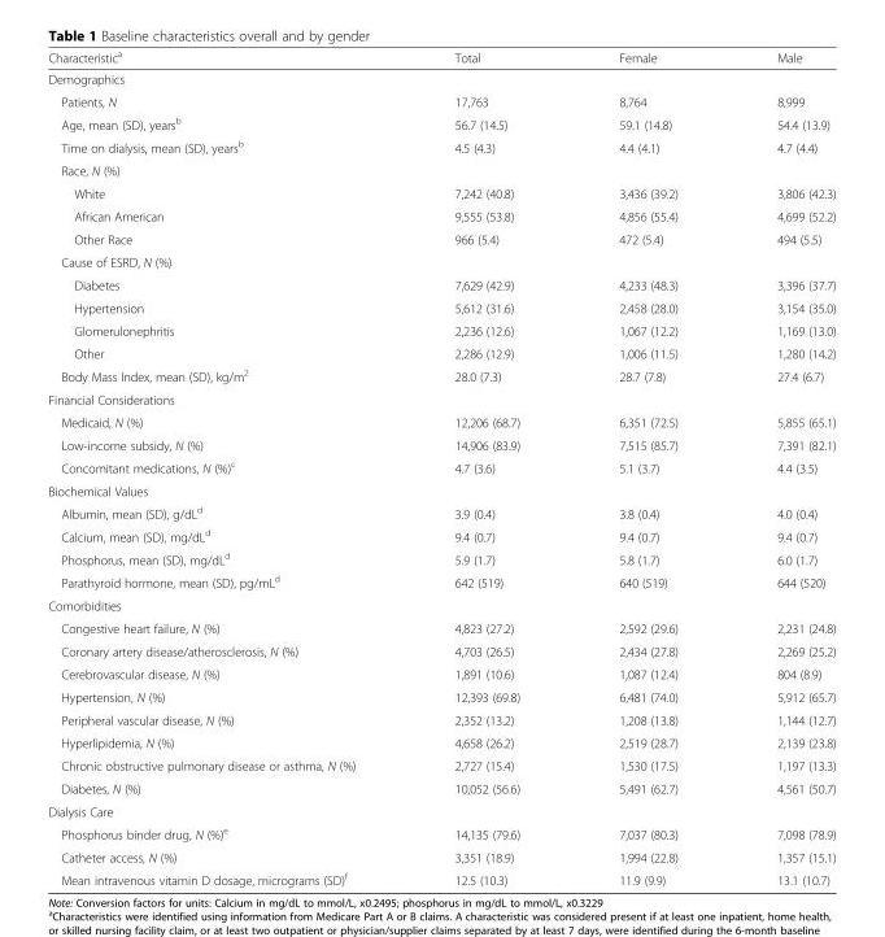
<table><thead><tr><td>Characteristic<sup>a</sup></td><td>Total</td><td>Female</td><td>Male</td></tr></thead><tbody><tr><td colspan="4">Demographics</td></tr><tr><td>Patients, N</td><td>17,763</td><td>8,764</td><td>8,999</td></tr><tr><td>Age, mean (SD), years<sup>b</sup></td><td>56.7 (14.5)</td><td>59.1 (14.8)</td><td>54.4 (13.9)</td></tr><tr><td>Time on dialysis, mean (SD), years<sup>b</sup></td><td>4.5 (4.3)</td><td>4.4 (4.1)</td><td>4.7 (4.4)</td></tr><tr><td colspan="4">Race, N (%)</td></tr><tr><td>White</td><td>7,242 (40.8)</td><td>3,436 (39.2)</td><td>3,806 (42.3)</td></tr><tr><td>African American</td><td>9,555 (53.8)</td><td>4,856 (55.4)</td><td>4,699 (52.2)</td></tr><tr><td>Other Race</td><td>966 (5.4)</td><td>472 (5.4)</td><td>494 (5.5)</td></tr><tr><td colspan="4">Cause of ESRD, N (%)</td></tr><tr><td>Diabetes</td><td>7,629 (42.9)</td><td>4,233 (48.3)</td><td>3,396 (37.7)</td></tr><tr><td>Hypertension</td><td>5,612 (31.6)</td><td>2,458 (28.0)</td><td>3,154 (35.0)</td></tr><tr><td>Glomerulonephritis</td><td>2,236 (12.6)</td><td>1,067 (12.2)</td><td>1,169 (13.0)</td></tr><tr><td>Other</td><td>2,286 (12.9)</td><td>1,006 (11.5)</td><td>1,280 (14.2)</td></tr><tr><td>Body Mass Index, mean (SD), kg/m<sup>2</sup></td><td>28.0 (7.3)</td><td>28.7 (7.8)</td><td>27.4 (6.7)</td></tr><tr><td colspan="4">Financial Considerations</td></tr><tr><td>Medicaid, N (%)</td><td>12,206 (68.7)</td><td>6,351 (72.5)</td><td>5,855 (65.1)</td></tr><tr><td>Low-income subsidy, N (%)</td><td>14,906 (83.9)</td><td>7,515 (85.7)</td><td>7,391 (82.1)</td></tr><tr><td>Concomitant medications, N (%)<sup>c</sup></td><td>4.7 (3.6)</td><td>5.1 (3.7)</td><td>4.4 (3.5)</td></tr><tr><td colspan="4">Biochemical Values</td></tr><tr><td>Albumin, mean (SD), g/dL<sup>d</sup></td><td>3.9 (0.4)</td><td>3.8 (0.4)</td><td>4.0 (0.4)</td></tr><tr><td>Calcium, mean (SD), mg/dL<sup>d</sup></td><td>9.4 (0.7)</td><td>9.4 (0.7)</td><td>9.4 (0.7)</td></tr><tr><td>Phosphorus, mean (SD), mg/dL<sup>d</sup></td><td>5.9 (1.7)</td><td>5.8 (1.7)</td><td>6.0 (1.7)</td></tr><tr><td>Parathyroid hormone, mean (SD), pg/mL<sup>d</sup></td><td>642 (519)</td><td>640 (519)</td><td>644 (520)</td></tr><tr><td colspan="4">Comorbidities</td></tr><tr><td>Congestive heart failure, N (%)</td><td>4,823 (27.2)</td><td>2,592 (29.6)</td><td>2,231 (24.8)</td></tr><tr><td>Coronary artery disease/atherosclerosis, N (%)</td><td>4,703 (26.5)</td><td>2,434 (27.8)</td><td>2,269 (25.2)</td></tr><tr><td>Cerebrovascular disease, N (%)</td><td>1,891 (10.6)</td><td>1,087 (12.4)</td><td>804 (8.9)</td></tr><tr><td>Hypertension, N (%)</td><td>12,393 (69.8)</td><td>6,481 (74.0)</td><td>5,912 (65.7)</td></tr><tr><td>Peripheral vascular disease, N (%)</td><td>2,352 (13.2)</td><td>1,208 (13.8)</td><td>1,144 (12.7)</td></tr><tr><td>Hyperlipidemia, N (%)</td><td>4,658 (26.2)</td><td>2,519 (28.7)</td><td>2,139 (23.8)</td></tr><tr><td>Chronic obstructive pulmonary disease or asthma, N (%)</td><td>2,727 (15.4)</td><td>1,530 (17.5)</td><td>1,197 (13.3)</td></tr><tr><td>Diabetes, N (%)</td><td>10,052 (56.6)</td><td>5,491 (62.7)</td><td>4,561 (50.7)</td></tr><tr><td colspan="4">Dialysis Care</td></tr><tr><td>Phosphorus binder drug, N (%)<sup>e</sup></td><td>14,135 (79.6)</td><td>7,037 (80.3)</td><td>7,098 (78.9)</td></tr><tr><td>Catheter access, N (%)</td><td>3,351 (18.9)</td><td>1,994 (22.8)</td><td>1,357 (15.1)</td></tr><tr><td>Mean intravenous vitamin D dosage, micrograms (SD)<sup>f</sup></td><td>12.5 (10.3)</td><td>11.9 (9.9)</td><td>13.1 (10.7)</td></tr></tbody></table>